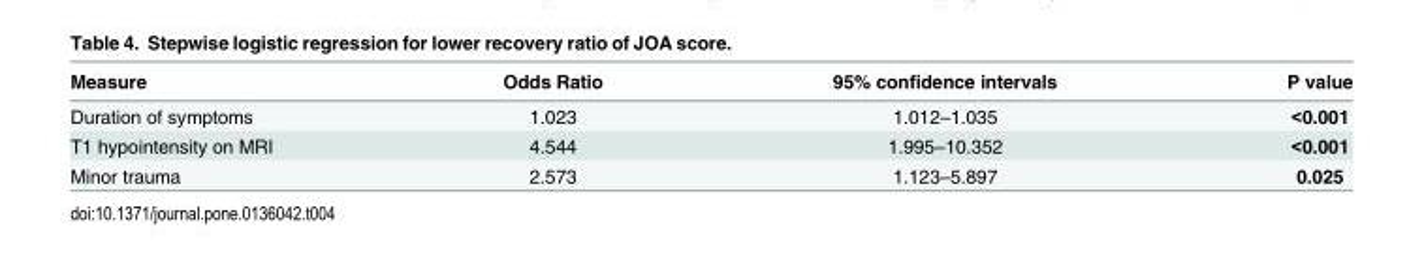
<table><thead><tr><td>Measure</td><td>Odds Ratio</td><td>95% confidence intervals</td><td>P value</td></tr></thead><tbody><tr><td>Duration of symptoms</td><td>1.023</td><td>1.012–1.035</td><td>&lt;0.001</td></tr><tr><td>T1 hypointensity on MRI</td><td>4.544</td><td>1.995–10.352</td><td>&lt;0.001</td></tr><tr><td>Minor trauma</td><td>2.573</td><td>1.123–5.897</td><td>0.025</td></tr></tbody></table>